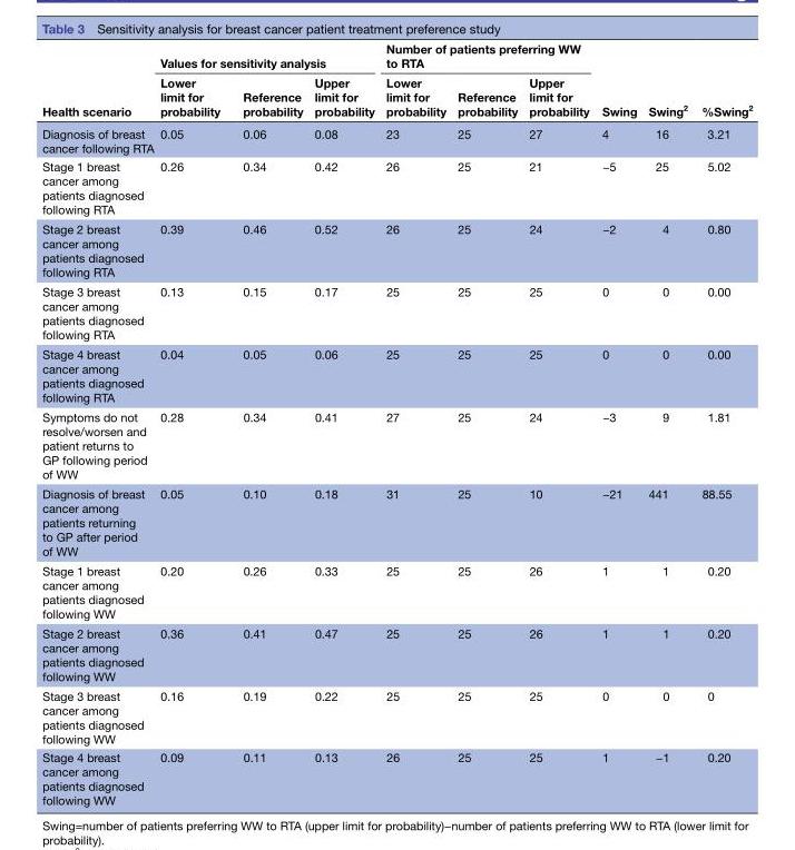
<table><thead><tr><td rowspan="2">Health scenario</td><td colspan="3">Values for sensitivity analysis</td><td colspan="3">Number of patients preferring WW to RTA</td><td rowspan="2">Swing</td><td rowspan="2">Swing<sup>2</sup></td><td rowspan="2">%Swing<sup>2</sup></td></tr><tr><td>Lower limit for probability</td><td>Reference probability</td><td>Upper limit for probability</td><td>Lower limit for probability</td><td>Reference probability</td><td>Upper limit for probability</td></tr></thead><tbody><tr><td>Diagnosis of breast cancer following RTA</td><td>0.05</td><td>0.06</td><td>0.08</td><td>23</td><td>25</td><td>27</td><td>4</td><td>16</td><td>3.21</td></tr><tr><td>Stage 1 breast cancer among patients diagnosed following RTA</td><td>0.26</td><td>0.34</td><td>0.42</td><td>26</td><td>25</td><td>21</td><td>−5</td><td>25</td><td>5.02</td></tr><tr><td>Stage 2 breast cancer among patients diagnosed following RTA</td><td>0.39</td><td>0.46</td><td>0.52</td><td>26</td><td>25</td><td>24</td><td>−2</td><td>4</td><td>0.80</td></tr><tr><td>Stage 3 breast cancer among patients diagnosed following RTA</td><td>0.13</td><td>0.15</td><td>0.17</td><td>25</td><td>25</td><td>25</td><td>0</td><td>0</td><td>0.00</td></tr><tr><td>Stage 4 breast cancer among patients diagnosed following RTA</td><td>0.04</td><td>0.05</td><td>0.06</td><td>25</td><td>25</td><td>25</td><td>0</td><td>0</td><td>0.00</td></tr><tr><td>Symptoms do not resolve/worsen and patient returns to GP following period of WW</td><td>0.28</td><td>0.34</td><td>0.41</td><td>27</td><td>25</td><td>24</td><td>−3</td><td>9</td><td>1.81</td></tr><tr><td>Diagnosis of breast cancer among patients returning to GP after period of WW</td><td>0.05</td><td>0.10</td><td>0.18</td><td>31</td><td>25</td><td>10</td><td>−21</td><td>441</td><td>88.55</td></tr><tr><td>Stage 1 breast cancer among patients diagnosed following WW</td><td>0.20</td><td>0.26</td><td>0.33</td><td>25</td><td>25</td><td>26</td><td>1</td><td>1</td><td>0.20</td></tr><tr><td>Stage 2 breast cancer among patients diagnosed following WW</td><td>0.36</td><td>0.41</td><td>0.47</td><td>25</td><td>25</td><td>26</td><td>1</td><td>1</td><td>0.20</td></tr><tr><td>Stage 3 breast cancer among patients diagnosed following WW</td><td>0.16</td><td>0.19</td><td>0.22</td><td>25</td><td>25</td><td>25</td><td>0</td><td>0</td><td>0</td></tr><tr><td>Stage 4 breast cancer among patients diagnosed following WW</td><td>0.09</td><td>0.11</td><td>0.13</td><td>26</td><td>25</td><td>25</td><td>1</td><td>−1</td><td>0.20</td></tr></tbody></table>